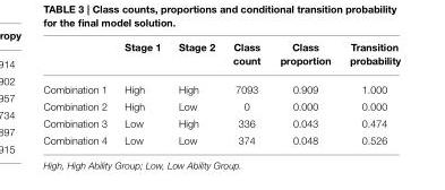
<table><thead><tr><td></td><td>Stage 1</td><td>Stage 2</td><td>Class count</td><td>Class proportion</td><td>Transition probability</td></tr></thead><tbody><tr><td>Combination 1</td><td>High</td><td>High</td><td>7093</td><td>0.909</td><td>1.000</td></tr><tr><td>Combination 2</td><td>High</td><td>Low</td><td>0</td><td>0.000</td><td>0.000</td></tr><tr><td>Combination 3</td><td>Low</td><td>High</td><td>336</td><td>0.043</td><td>0.474</td></tr><tr><td>Combination 4</td><td>Low</td><td>Low</td><td>374</td><td>0.048</td><td>0.526</td></tr></tbody></table>